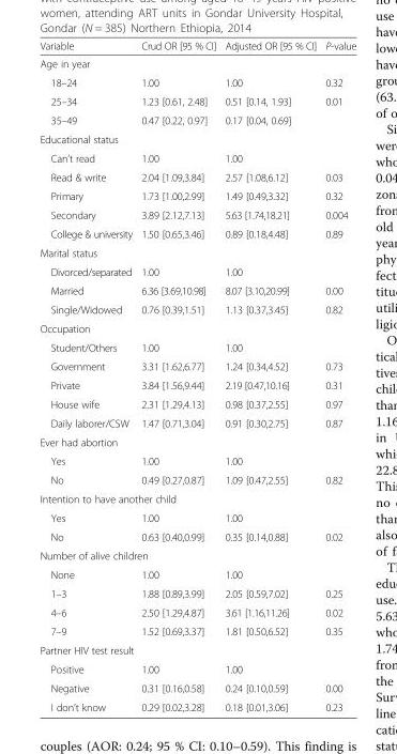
<table><thead><tr><td>Variable</td><td>Crud OR [95 % CI]</td><td>Adjusted OR [95 % CI]</td><td>P-value</td></tr></thead><tbody><tr><td colspan="4">Age in year</td></tr><tr><td>18–24</td><td>1.00</td><td>1.00</td><td>0.32</td></tr><tr><td>25–34</td><td>1.23 [0.61, 2.48]</td><td>0.51 [0.14, 1.93]</td><td>0.01</td></tr><tr><td>35–49</td><td>0.47 [0.22, 0.97]</td><td>0.17 [0.04, 0.69]</td><td></td></tr><tr><td colspan="4">Educational status</td></tr><tr><td>Can’t read</td><td>1.00</td><td>1.00</td><td></td></tr><tr><td>Read &amp; write</td><td>2.04 [1.09,3.84]</td><td>2.57 [1.08,6.12]</td><td>0.03</td></tr><tr><td>Primary</td><td>1.73 [1.00,2.99]</td><td>1.49 [0.49,3.32]</td><td>0.32</td></tr><tr><td>Secondary</td><td>3.89 [2.12,7.13]</td><td>5.63 [1.74,18.21]</td><td>0.004</td></tr><tr><td>College &amp; university</td><td>1.50 [0.65,3.46]</td><td>0.89 [0.18,4.48]</td><td>0.89</td></tr><tr><td colspan="4">Marital status</td></tr><tr><td>Divorced/separated</td><td>1.00</td><td>1.00</td><td></td></tr><tr><td>Married</td><td>6.36 [3.69,10.98]</td><td>8.07 [3.10,20.99]</td><td>0.00</td></tr><tr><td>Single/Widowed</td><td>0.76 [0.39,1.51]</td><td>1.13 [0.37,3.45]</td><td>0.82</td></tr><tr><td colspan="4">Occupation</td></tr><tr><td>Student/Others</td><td>1.00</td><td>1.00</td><td></td></tr><tr><td>Government</td><td>3.31 [1.62,6.77]</td><td>1.24 [0.34,4.52]</td><td>0.73</td></tr><tr><td>Private</td><td>3.84 [1.56,9.44]</td><td>2.19 [0.47,10.16]</td><td>0.31</td></tr><tr><td>House wife</td><td>2.31 [1.29,4.13]</td><td>0.98 [0.37,2.55]</td><td>0.97</td></tr><tr><td>Daily laborer/CSW</td><td>1.47 [0.71,3.04]</td><td>0.91 [0.30,2.75]</td><td>0.87</td></tr><tr><td colspan="4">Ever had abortion</td></tr><tr><td>Yes</td><td>1.00</td><td>1.00</td><td></td></tr><tr><td>No</td><td>0.49 [0.27,0.87]</td><td>1.09 [0.47,2.55]</td><td>0.82</td></tr><tr><td colspan="4">Intention to have another child</td></tr><tr><td>Yes</td><td>1.00</td><td>1.00</td><td></td></tr><tr><td>No</td><td>0.63 [0.40,0.99]</td><td>0.35 [0.14,0.88]</td><td>0.02</td></tr><tr><td colspan="4">Number of alive children</td></tr><tr><td>None</td><td>1.00</td><td>1.00</td><td></td></tr><tr><td>1–3</td><td>1.88 [0.89,3.99]</td><td>2.05 [0.59,7.02]</td><td>0.25</td></tr><tr><td>4–6</td><td>2.50 [1.29,4.87]</td><td>3.61 [1.16,11.26]</td><td>0.02</td></tr><tr><td>7–9</td><td>1.52 [0.69,3.37]</td><td>1.81 [0.50,6.52]</td><td>0.35</td></tr><tr><td colspan="4">Partner HIV test result</td></tr><tr><td>Positive</td><td>1.00</td><td>1.00</td><td></td></tr><tr><td>Negative</td><td>0.31 [0.16,0.58]</td><td>0.24 [0.10,0.59]</td><td>0.00</td></tr><tr><td>I don’t know</td><td>0.29 [0.02,3.28]</td><td>0.18 [0.01,3.06]</td><td>0.23</td></tr></tbody></table>